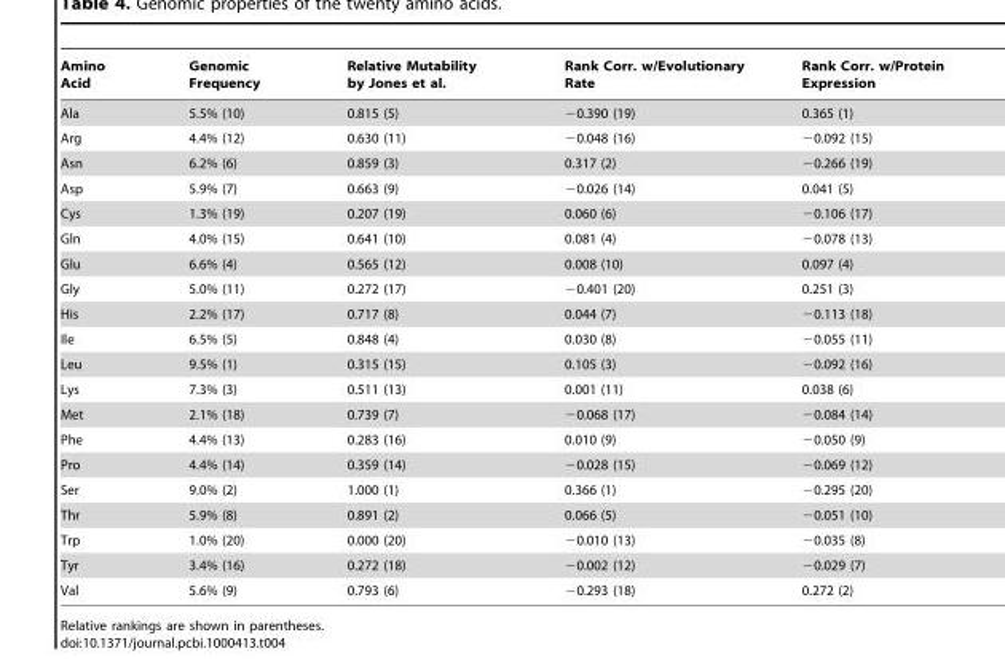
<table><thead><tr><td>Amino Acid</td><td>Genomic Frequency</td><td>Relative Mutability by Jones et al.</td><td>Rank Corr. w/Evolutionary Rate</td><td>Rank Corr. w/Protein Expression</td></tr></thead><tbody><tr><td>Ala</td><td>5.5% (10)</td><td>0.815 (5)</td><td>−0.390 (19)</td><td>0.365 (1)</td></tr><tr><td>Arg</td><td>4.4% (12)</td><td>0.630 (11)</td><td>−0.048 (16)</td><td>−0.092 (15)</td></tr><tr><td>Asn</td><td>6.2% (6)</td><td>0.859 (3)</td><td>0.317 (2)</td><td>−0.266 (19)</td></tr><tr><td>Asp</td><td>5.9% (7)</td><td>0.663 (9)</td><td>−0.026 (14)</td><td>0.041 (5)</td></tr><tr><td>Cys</td><td>1.3% (19)</td><td>0.207 (19)</td><td>0.060 (6)</td><td>−0.106 (17)</td></tr><tr><td>Gln</td><td>4.0% (15)</td><td>0.641 (10)</td><td>0.081 (4)</td><td>−0.078 (13)</td></tr><tr><td>Glu</td><td>6.6% (4)</td><td>0.565 (12)</td><td>0.008 (10)</td><td>0.097 (4)</td></tr><tr><td>Gly</td><td>5.0% (11)</td><td>0.272 (17)</td><td>−0.401 (20)</td><td>0.251 (3)</td></tr><tr><td>His</td><td>2.2% (17)</td><td>0.717 (8)</td><td>0.044 (7)</td><td>−0.113 (18)</td></tr><tr><td>Ile</td><td>6.5% (5)</td><td>0.848 (4)</td><td>0.030 (8)</td><td>−0.055 (11)</td></tr><tr><td>Leu</td><td>9.5% (1)</td><td>0.315 (15)</td><td>0.105 (3)</td><td>−0.092 (16)</td></tr><tr><td>Lys</td><td>7.3% (3)</td><td>0.511 (13)</td><td>0.001 (11)</td><td>0.038 (6)</td></tr><tr><td>Met</td><td>2.1% (18)</td><td>0.739 (7)</td><td>−0.068 (17)</td><td>−0.084 (14)</td></tr><tr><td>Phe</td><td>4.4% (13)</td><td>0.283 (16)</td><td>0.010 (9)</td><td>−0.050 (9)</td></tr><tr><td>Pro</td><td>4.4% (14)</td><td>0.359 (14)</td><td>−0.028 (15)</td><td>−0.069 (12)</td></tr><tr><td>Ser</td><td>9.0% (2)</td><td>1.000 (1)</td><td>0.366 (1)</td><td>−0.295 (20)</td></tr><tr><td>Thr</td><td>5.9% (8)</td><td>0.891 (2)</td><td>0.066 (5)</td><td>−0.051 (10)</td></tr><tr><td>Trp</td><td>1.0% (20)</td><td>0.000 (20)</td><td>−0.010 (13)</td><td>−0.035 (8)</td></tr><tr><td>Tyr</td><td>3.4% (16)</td><td>0.272 (18)</td><td>−0.002 (12)</td><td>−0.029 (7)</td></tr><tr><td>Val</td><td>5.6% (9)</td><td>0.793 (6)</td><td>−0.293 (18)</td><td>0.272 (2)</td></tr></tbody></table>